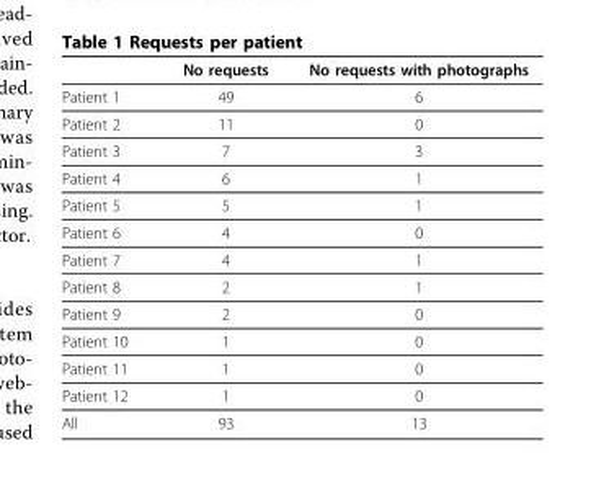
<table><thead><tr><td></td><td>No requests</td><td>No requests with photographs</td></tr></thead><tbody><tr><td>Patient 1</td><td>49</td><td>6</td></tr><tr><td>Patient 2</td><td>11</td><td>0</td></tr><tr><td>Patient 3</td><td>7</td><td>3</td></tr><tr><td>Patient 4</td><td>6</td><td>1</td></tr><tr><td>Patient 5</td><td>5</td><td>1</td></tr><tr><td>Patient 6</td><td>4</td><td>0</td></tr><tr><td>Patient 7</td><td>4</td><td>1</td></tr><tr><td>Patient 8</td><td>2</td><td>1</td></tr><tr><td>Patient 9</td><td>2</td><td>0</td></tr><tr><td>Patient 10</td><td>1</td><td>0</td></tr><tr><td>Patient 11</td><td>1</td><td>0</td></tr><tr><td>Patient 12</td><td>1</td><td>0</td></tr><tr><td>All</td><td>93</td><td>13</td></tr></tbody></table>